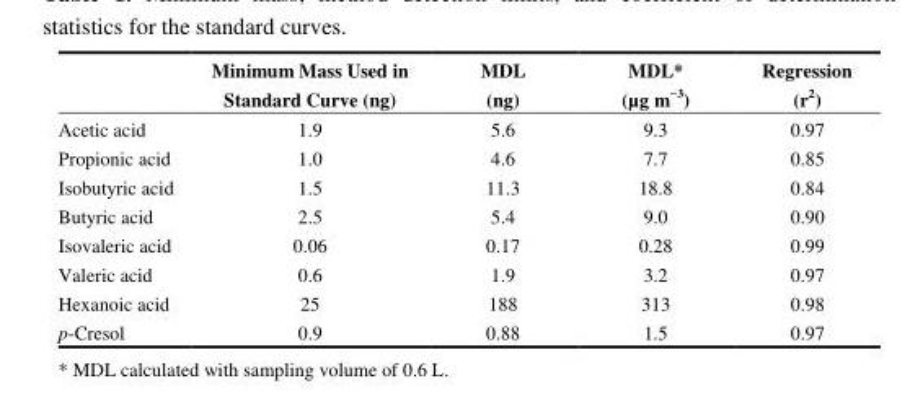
<table><thead><tr><td></td><td>Minimum Mass Used in Standard Curve (ng)</td><td>MDL (ng)</td><td>MDL* (µg m<sup>−3</sup>)</td><td>Regression (r<sup>2</sup>)</td></tr></thead><tbody><tr><td>Acetic acid</td><td>1.9</td><td>5.6</td><td>9.3</td><td>0.97</td></tr><tr><td>Propionic acid</td><td>1.0</td><td>4.6</td><td>7.7</td><td>0.85</td></tr><tr><td>Isobutyric acid</td><td>1.5</td><td>11.3</td><td>18.8</td><td>0.84</td></tr><tr><td>Butyric acid</td><td>2.5</td><td>5.4</td><td>9.0</td><td>0.90</td></tr><tr><td>Isovaleric acid</td><td>0.06</td><td>0.17</td><td>0.28</td><td>0.99</td></tr><tr><td>Valeric acid</td><td>0.6</td><td>1.9</td><td>3.2</td><td>0.97</td></tr><tr><td>Hexanoic acid</td><td>25</td><td>188</td><td>313</td><td>0.98</td></tr><tr><td>p-Cresol</td><td>0.9</td><td>0.88</td><td>1.5</td><td>0.97</td></tr></tbody></table>